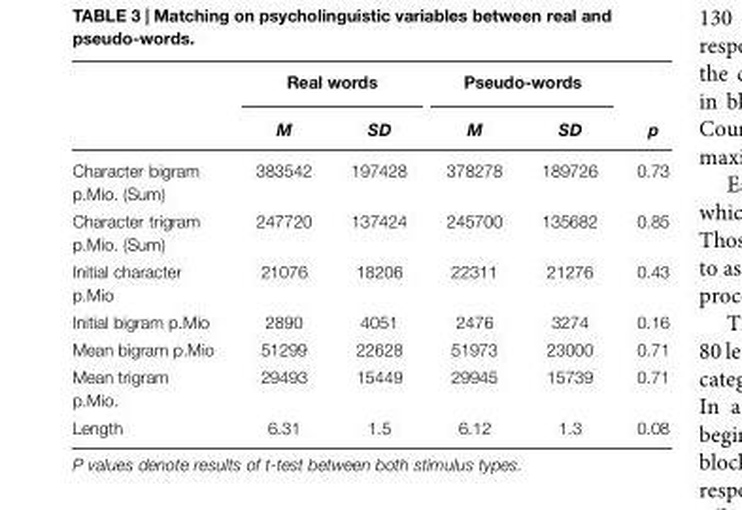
<table><thead><tr><td rowspan="2"></td><td colspan="2">Real words</td><td colspan="2">Pseudo-words</td><td rowspan="2">p</td></tr><tr><td>M</td><td>SD</td><td>M</td><td>SD</td></tr></thead><tbody><tr><td>Character bigram p.Mio. (Sum)</td><td>383542</td><td>197428</td><td>378278</td><td>189726</td><td>0.73</td></tr><tr><td>Character trigram p.Mio. (Sum)</td><td>247720</td><td>137424</td><td>245700</td><td>135682</td><td>0.85</td></tr><tr><td>Initial character p.Mio</td><td>21076</td><td>18206</td><td>22311</td><td>21276</td><td>0.43</td></tr><tr><td>Initial bigram p.Mio</td><td>2890</td><td>4051</td><td>2476</td><td>3274</td><td>0.16</td></tr><tr><td>Mean bigram p.Mio</td><td>51299</td><td>22628</td><td>51973</td><td>23000</td><td>0.71</td></tr><tr><td>Mean trigram p.Mio.</td><td>29493</td><td>15449</td><td>29945</td><td>15739</td><td>0.71</td></tr><tr><td>Length</td><td>6.31</td><td>1.5</td><td>6.12</td><td>1.3</td><td>0.08</td></tr></tbody></table>